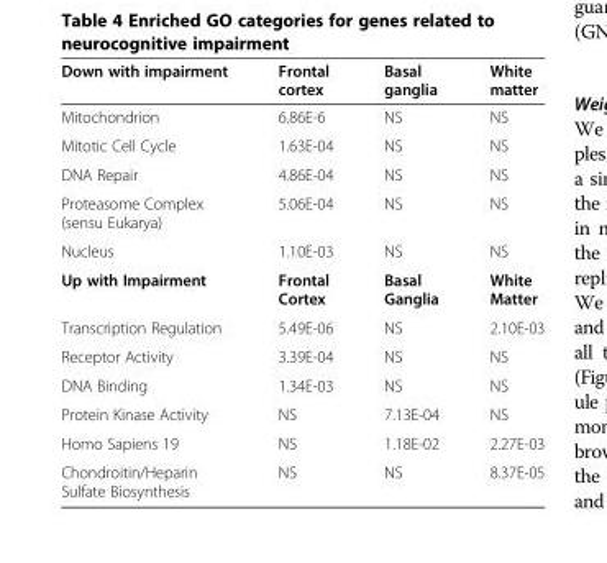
<table><thead><tr><td>Down with impairment</td><td>Frontal cortex</td><td>Basal ganglia</td><td>White matter</td></tr></thead><tbody><tr><td>Mitochondrion</td><td>6.86E-6</td><td>NS</td><td>NS</td></tr><tr><td>Mitotic Cell Cycle</td><td>1.63E-04</td><td>NS</td><td>NS</td></tr><tr><td>DNA Repair</td><td>4.86E-04</td><td>NS</td><td>NS</td></tr><tr><td>Proteasome Complex (sensu Eukarya)</td><td>5.06E-04</td><td>NS</td><td>NS</td></tr><tr><td>Nucleus</td><td>1.10E-03</td><td>NS</td><td>NS</td></tr><tr><td>Up with Impairment</td><td>Frontal Cortex</td><td>Basal Ganglia</td><td>White Matter</td></tr><tr><td>Transcription Regulation</td><td>5.49E-06</td><td>NS</td><td>2.10E-03</td></tr><tr><td>Receptor Activity</td><td>3.39E-04</td><td>NS</td><td>NS</td></tr><tr><td>DNA Binding</td><td>1.34E-03</td><td>NS</td><td>NS</td></tr><tr><td>Protein Kinase Activity</td><td>NS</td><td>7.13E-04</td><td>NS</td></tr><tr><td>Homo Sapiens 19</td><td>NS</td><td>1.18E-02</td><td>2.27E-03</td></tr><tr><td>Chondroitin/Heparin Sulfate Biosynthesis</td><td>NS</td><td>NS</td><td>8.37E-05</td></tr></tbody></table>